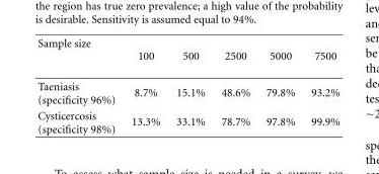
<table><thead><tr><td>Sample size</td><td>100</td><td>500</td><td>2500</td><td>5000</td><td>7500</td></tr></thead><tbody><tr><td>Taeniasis (specificity 96%)</td><td>8.7%</td><td>15.1%</td><td>48.6%</td><td>79.8%</td><td>93.2%</td></tr><tr><td>Cysticercosis (specificity 98%)</td><td>13.3%</td><td>33.1%</td><td>78.7%</td><td>97.8%</td><td>99.9%</td></tr></tbody></table>